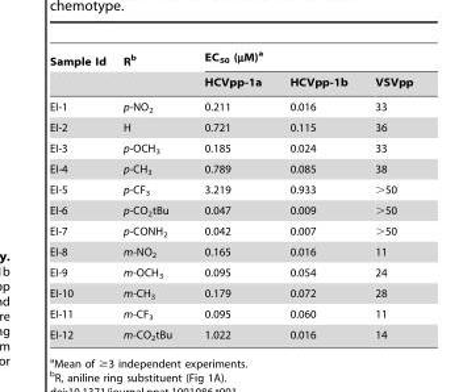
<table><thead><tr><td rowspan="2">Sample Id</td><td rowspan="2">R<sup>b</sup></td><td colspan="3">EC<sub>50</sub> (µM)<sup>a</sup></td></tr><tr><td>HCVpp-1a</td><td>HCVpp-1b</td><td>VSVpp</td></tr></thead><tbody><tr><td>EI-1</td><td>p-NO<sub>2</sub></td><td>0.211</td><td>0.016</td><td>33</td></tr><tr><td>EI-2</td><td>H</td><td>0.721</td><td>0.115</td><td>36</td></tr><tr><td>EI-3</td><td>p-OCH<sub>3</sub></td><td>0.185</td><td>0.024</td><td>33</td></tr><tr><td>EI-4</td><td>p-CH<sub>3</sub></td><td>0.789</td><td>0.085</td><td>38</td></tr><tr><td>EI-5</td><td>p-CF<sub>3</sub></td><td>3.219</td><td>0.933</td><td>&gt;50</td></tr><tr><td>EI-6</td><td>p-CO<sub>2</sub>tBu</td><td>0.047</td><td>0.009</td><td>&gt;50</td></tr><tr><td>EI-7</td><td>p-CONH<sub>2</sub></td><td>0.042</td><td>0.007</td><td>&gt;50</td></tr><tr><td>EI-8</td><td>m-NO<sub>2</sub></td><td>0.165</td><td>0.016</td><td>11</td></tr><tr><td>EI-9</td><td>m-OCH<sub>3</sub></td><td>0.095</td><td>0.054</td><td>24</td></tr><tr><td>EI-10</td><td>m-CH<sub>3</sub></td><td>0.179</td><td>0.072</td><td>28</td></tr><tr><td>EI-11</td><td>m-CF<sub>3</sub></td><td>0.095</td><td>0.060</td><td>11</td></tr><tr><td>EI-12</td><td>m-CO<sub>2</sub>tBu</td><td>1.022</td><td>0.016</td><td>14</td></tr></tbody></table>